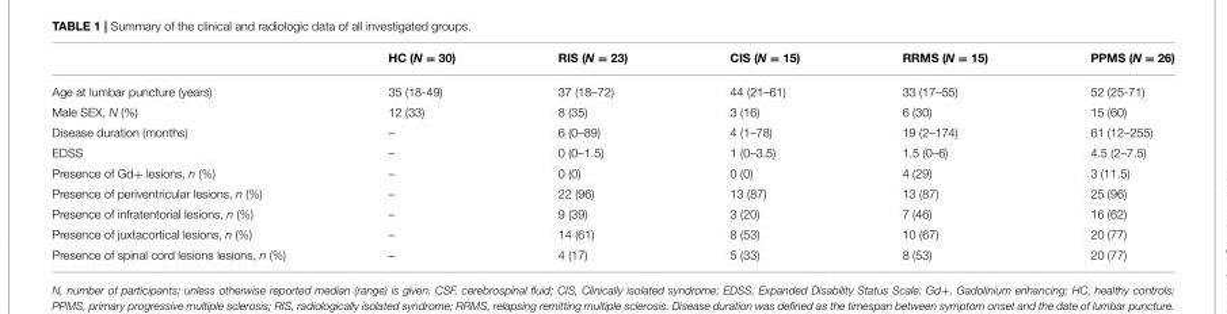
<table><thead><tr><td></td><td>HC (N = 30)</td><td>RIS (N = 23)</td><td>CIS (N = 15)</td><td>RRMS (N = 15)</td><td>PPMS (N = 26)</td></tr></thead><tbody><tr><td>Age at lumbar puncture (years)</td><td>35 (18-49)</td><td>37 (18–72)</td><td>44 (21–61)</td><td>33 (17–55)</td><td>52 (25-71)</td></tr><tr><td>Male SEX, N (%)</td><td>12 (33)</td><td>8 (35)</td><td>3 (16)</td><td>6 (30)</td><td>15 (60)</td></tr><tr><td>Disease duration (months)</td><td>–</td><td>6 (0–89)</td><td>4 (1–78)</td><td>19 (2–174)</td><td>61 (12–255)</td></tr><tr><td>EDSS</td><td>–</td><td>0 (0–1.5)</td><td>1 (0–3.5)</td><td>1.5 (0–6)</td><td>4.5 (2–7.5)</td></tr><tr><td>Presence of Gd+ lesions, n (%)</td><td>–</td><td>0 (0)</td><td>0 (0)</td><td>4 (29)</td><td>3 (11.5)</td></tr><tr><td>Presence of periventricular lesions, n (%)</td><td>–</td><td>22 (96)</td><td>13 (87)</td><td>13 (87)</td><td>25 (96)</td></tr><tr><td>Presence of infratentorial lesions, n (%)</td><td>–</td><td>9 (39)</td><td>3 (20)</td><td>7 (46)</td><td>16 (62)</td></tr><tr><td>Presence of juxtacortical lesions, n (%)</td><td>–</td><td>14 (61)</td><td>8 (53)</td><td>10 (67)</td><td>20 (77)</td></tr><tr><td>Presence of spinal cord lesions lesions, n (%)</td><td>–</td><td>4 (17)</td><td>5 (33)</td><td>8 (53)</td><td>20 (77)</td></tr></tbody></table>